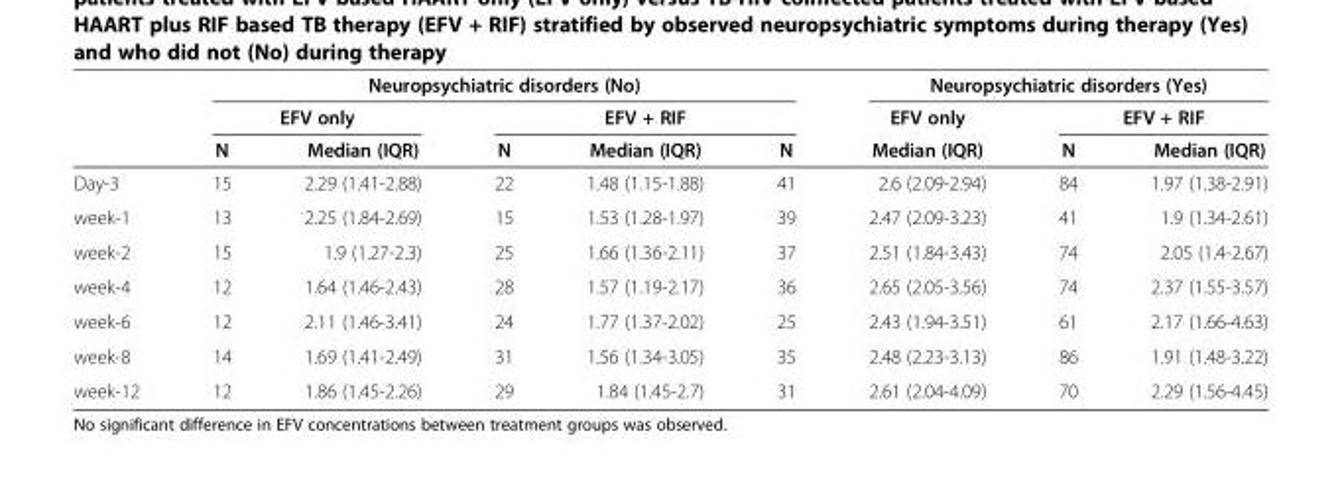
<table><thead><tr><td rowspan="3"></td><td colspan="5">Neuropsychiatric disorders (No)</td><td colspan="3">Neuropsychiatric disorders (Yes)</td></tr><tr><td rowspan="2">N</td><td rowspan="2">EFV only Median (IQR)</td><td colspan="3">EFV + RIF</td><td rowspan="2">EFV only Median (IQR)</td><td rowspan="2">N</td><td rowspan="2">EFV + RIF Median (IQR)</td></tr><tr><td>N</td><td>Median (IQR)</td><td>N</td></tr></thead><tbody><tr><td>Day-3</td><td>15</td><td>2.29 (1.41-2.88)</td><td>22</td><td>1.48 (1.15-1.88)</td><td>41</td><td>2.6 (2.09-2.94)</td><td>84</td><td>1.97 (1.38-2.91)</td></tr><tr><td>week-1</td><td>13</td><td>2.25 (1.84-2.69)</td><td>15</td><td>1.53 (1.28-1.97)</td><td>39</td><td>2.47 (2.09-3.23)</td><td>41</td><td>1.9 (1.34-2.61)</td></tr><tr><td>week-2</td><td>15</td><td>1.9 (1.27-2.3)</td><td>25</td><td>1.66 (1.36-2.11)</td><td>37</td><td>2.51 (1.84-3.43)</td><td>74</td><td>2.05 (1.4-2.67)</td></tr><tr><td>week-4</td><td>12</td><td>1.64 (1.46-2.43)</td><td>28</td><td>1.57 (1.19-2.17)</td><td>36</td><td>2.65 (2.05-3.56)</td><td>74</td><td>2.37 (1.55-3.57)</td></tr><tr><td>week-6</td><td>12</td><td>2.11 (1.46-3.41)</td><td>24</td><td>1.77 (1.37-2.02)</td><td>25</td><td>2.43 (1.94-3.51)</td><td>61</td><td>2.17 (1.66-4.63)</td></tr><tr><td>week-8</td><td>14</td><td>1.69 (1.41-2.49)</td><td>31</td><td>1.56 (1.34-3.05)</td><td>35</td><td>2.48 (2.23-3.13)</td><td>86</td><td>1.91 (1.48-3.22)</td></tr><tr><td>week-12</td><td>12</td><td>1.86 (1.45-2.26)</td><td>29</td><td>1.84 (1.45-2.7)</td><td>31</td><td>2.61 (2.04-4.09)</td><td>70</td><td>2.29 (1.56-4.45)</td></tr></tbody></table>